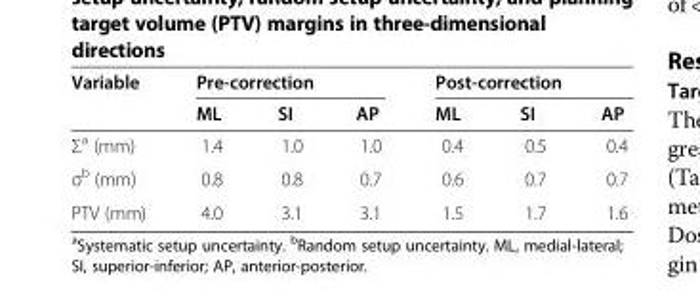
<table><thead><tr><td rowspan="2">Variable</td><td colspan="3">Pre-correction</td><td colspan="3">Post-correction</td></tr><tr><td>ML</td><td>SI</td><td>AP</td><td>ML</td><td>SI</td><td>AP</td></tr></thead><tbody><tr><td>Σ<sup>a</sup> (mm)</td><td>1.4</td><td>1.0</td><td>1.0</td><td>0.4</td><td>0.5</td><td>0.4</td></tr><tr><td>σ<sup>b</sup> (mm)</td><td>0.8</td><td>0.8</td><td>0.7</td><td>0.6</td><td>0.7</td><td>0.7</td></tr><tr><td>PTV (mm)</td><td>4.0</td><td>3.1</td><td>3.1</td><td>1.5</td><td>1.7</td><td>1.6</td></tr></tbody></table>